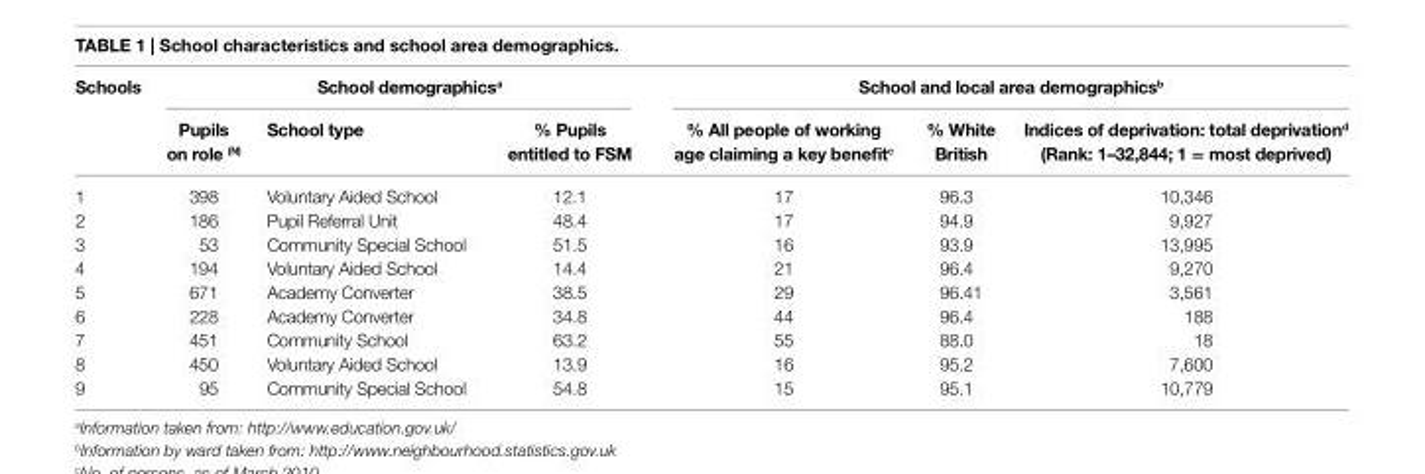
<table><thead><tr><td rowspan="2">schools</td><td colspan="3">school demographics<sup>a</sup></td><td colspan="3">school and local area demographics<sup>b</sup></td></tr><tr><td>Pupils on role <sup>(n)</sup></td><td>school type</td><td>% Pupils entitled to FsM</td><td>% all people of working age claiming a key benefit<sup>c</sup></td><td>% White British</td><td>indices of deprivation: total deprivation<sup>d</sup> (rank: 1–32,844; 1 = most deprived)</td></tr></thead><tbody><tr><td>1</td><td>398</td><td>Voluntary Aided School</td><td>12.1</td><td>17</td><td>96.3</td><td>10,346</td></tr><tr><td>2</td><td>186</td><td>Pupil Referral Unit</td><td>48.4</td><td>17</td><td>94.9</td><td>9,927</td></tr><tr><td>3</td><td>53</td><td>Community Special School</td><td>51.5</td><td>16</td><td>93.9</td><td>13,995</td></tr><tr><td>4</td><td>194</td><td>Voluntary Aided School</td><td>14.4</td><td>21</td><td>96.4</td><td>9,270</td></tr><tr><td>5</td><td>671</td><td>Academy Converter</td><td>38.5</td><td>29</td><td>96.41</td><td>3,561</td></tr><tr><td>6</td><td>228</td><td>Academy Converter</td><td>34.8</td><td>44</td><td>96.4</td><td>188</td></tr><tr><td>7</td><td>451</td><td>Community School</td><td>63.2</td><td>55</td><td>88.0</td><td>18</td></tr><tr><td>8</td><td>450</td><td>Voluntary Aided School</td><td>13.9</td><td>16</td><td>95.2</td><td>7,600</td></tr><tr><td>9</td><td>95</td><td>Community Special School</td><td>54.8</td><td>15</td><td>95.1</td><td>10,779</td></tr></tbody></table>